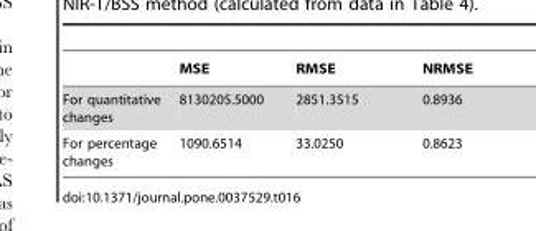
<table><thead><tr><td></td><td>MSE</td><td>RMSE</td><td>NRMSE</td></tr></thead><tbody><tr><td>For quantitative changes</td><td>8130205.5000</td><td>2851.3515</td><td>0.8936</td></tr><tr><td>For percentage changes</td><td>1090.6514</td><td>33.0250</td><td>0.8623</td></tr></tbody></table>